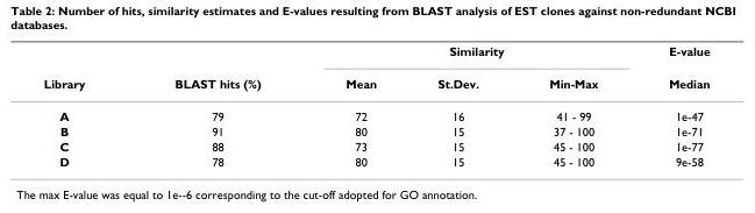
<table><thead><tr><td rowspan="2">Library</td><td rowspan="2">BLAST hits (%)</td><td colspan="3">Similarity</td><td rowspan="2">E-value Median</td></tr><tr><td>Mean</td><td>St.Dev.</td><td>Min-Max</td></tr></thead><tbody><tr><td>A</td><td>79</td><td>72</td><td>16</td><td>41 - 99</td><td>1e-47</td></tr><tr><td>B</td><td>91</td><td>80</td><td>15</td><td>37 - 100</td><td>1e-71</td></tr><tr><td>C</td><td>88</td><td>73</td><td>15</td><td>45 - 100</td><td>1e-77</td></tr><tr><td>D</td><td>78</td><td>80</td><td>15</td><td>45 - 100</td><td>9e-58</td></tr></tbody></table>